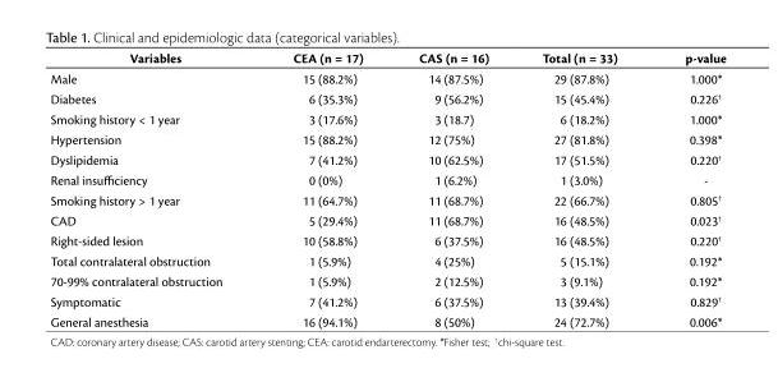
<table><thead><tr><td>Variables</td><td>CEA (n = 17)</td><td>CAS (n = 16)</td><td>Total (n = 33)</td><td>p-value</td></tr></thead><tbody><tr><td>Male</td><td>15 (88.2%)</td><td>14 (87.5%)</td><td>29 (87.8%)</td><td>1.000*</td></tr><tr><td>Diabetes</td><td>6 (35.3%)</td><td>9 (56.2%)</td><td>15 (45.4%)</td><td>0.226†</td></tr><tr><td>Smoking history &lt; 1 year</td><td>3 (17.6%)</td><td>3 (18.7)</td><td>6 (18.2%)</td><td>1.000*</td></tr><tr><td>Hypertension</td><td>15 (88.2%)</td><td>12 (75%)</td><td>27 (81.8%)</td><td>0.398*</td></tr><tr><td>Dyslipidemia</td><td>7 (41.2%)</td><td>10 (62.5%)</td><td>17 (51.5%)</td><td>0.220†</td></tr><tr><td>Renal insufficiency</td><td>0 (0%)</td><td>1 (6.2%)</td><td>1 (3.0%)</td><td>-</td></tr><tr><td>Smoking history &gt; 1 year</td><td>11 (64.7%)</td><td>11 (68.7%)</td><td>22 (66.7%)</td><td>0.805†</td></tr><tr><td>CAD</td><td>5 (29.4%)</td><td>11 (68.7%)</td><td>16 (48.5%)</td><td>0.023†</td></tr><tr><td>Right-sided lesion</td><td>10 (58.8%)</td><td>6 (37.5%)</td><td>16 (48.5%)</td><td>0.220†</td></tr><tr><td>Total contralateral obstruction</td><td>1 (5.9%)</td><td>4 (25%)</td><td>5 (15.1%)</td><td>0.192*</td></tr><tr><td>70-99% contralateral obstruction</td><td>1 (5.9%)</td><td>2 (12.5%)</td><td>3 (9.1%)</td><td>0.192*</td></tr><tr><td>Symptomatic</td><td>7 (41.2%)</td><td>6 (37.5%)</td><td>13 (39.4%)</td><td>0.829†</td></tr><tr><td>General anesthesia</td><td>16 (94.1%)</td><td>8 (50%)</td><td>24 (72.7%)</td><td>0.006*</td></tr></tbody></table>